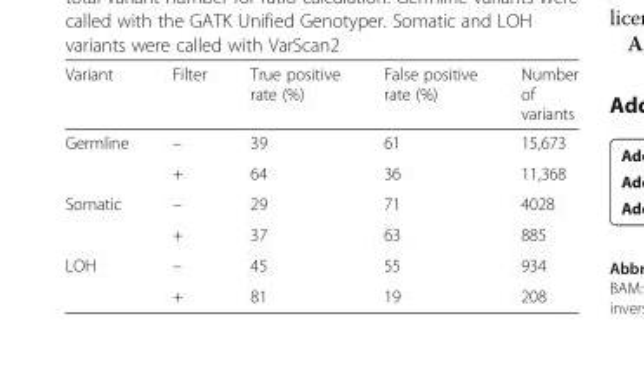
<table><thead><tr><td>Variant</td><td>Filter</td><td>True positive rate (%)</td><td>False positive rate (%)</td><td>Number of variants</td></tr></thead><tbody><tr><td rowspan="2">Germline</td><td>–</td><td>39</td><td>61</td><td>15,673</td></tr><tr><td>+</td><td>64</td><td>36</td><td>11,368</td></tr><tr><td rowspan="2">Somatic</td><td>–</td><td>29</td><td>71</td><td>4028</td></tr><tr><td>+</td><td>37</td><td>63</td><td>885</td></tr><tr><td rowspan="2">LOH</td><td>–</td><td>45</td><td>55</td><td>934</td></tr><tr><td>+</td><td>81</td><td>19</td><td>208</td></tr></tbody></table>